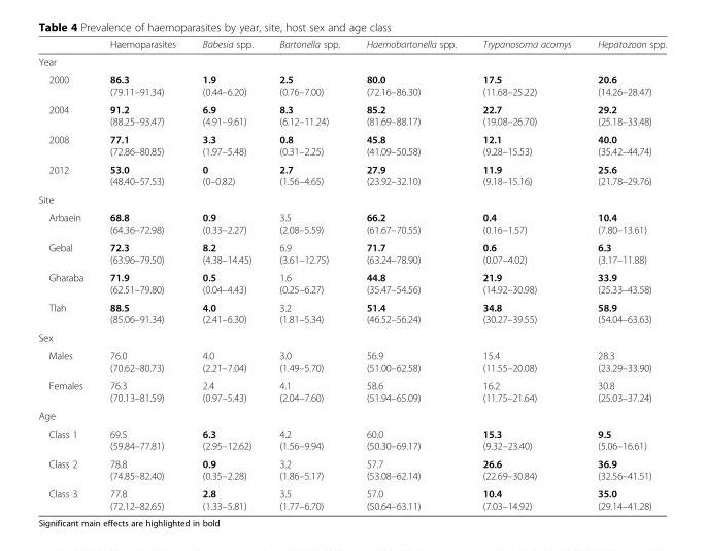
<table><thead><tr><td></td><td>Haemoparasites</td><td>Babesia spp.</td><td>Bartonella spp.</td><td>Haemobartonella spp.</td><td>Trypanosoma acomys</td><td>Hepatozoon spp.</td></tr></thead><tbody><tr><td colspan="7">Year</td></tr><tr><td>2000</td><td>86.3 (79.11–91.34)</td><td>1.9 (0.44–6.20)</td><td>2.5 (0.76–7.00)</td><td>80.0 (72.16–86.30)</td><td>17.5 (11.68–25.22)</td><td>20.6 (14.26–28.47)</td></tr><tr><td>2004</td><td>91.2 (88.25–93.47)</td><td>6.9 (4.91–9.61)</td><td>8.3 (6.12–11.24)</td><td>85.2 (81.69–88.17)</td><td>22.7 (19.08–26.70)</td><td>29.2 (25.18–33.48)</td></tr><tr><td>2008</td><td>77.1 (72.86–80.85)</td><td>3.3 (1.97–5.48)</td><td>0.8 (0.31–2.25)</td><td>45.8 (41.09–50.58)</td><td>12.1 (9.28–15.53)</td><td>40.0 (35.42–44.74)</td></tr><tr><td>2012</td><td>53.0 (48.40–57.53)</td><td>0 (0–0.82)</td><td>2.7 (1.56–4.65)</td><td>27.9 (23.92–32.10)</td><td>11.9 (9.18–15.16)</td><td>25.6 (21.78–29.76)</td></tr><tr><td colspan="7">Site</td></tr><tr><td>Arbaein</td><td>68.8 (64.36–72.98)</td><td>0.9 (0.33–2.27)</td><td>3.5 (2.08–5.59)</td><td>66.2 (61.67–70.55)</td><td>0.4 (0.16–1.57)</td><td>10.4 (7.80–13.61)</td></tr><tr><td>Gebal</td><td>72.3 (63.96–79.50)</td><td>8.2 (4.38–14.45)</td><td>6.9 (3.61–12.75)</td><td>71.7 (63.24–78.90)</td><td>0.6 (0.07–4.02)</td><td>6.3 (3.17–11.88)</td></tr><tr><td>Gharaba</td><td>71.9 (62.51–79.80)</td><td>0.5 (0.04–4.43)</td><td>1.6 (0.25–6.27)</td><td>44.8 (35.47–54.56)</td><td>21.9 (14.92–30.98)</td><td>33.9 (25.33–43.58)</td></tr><tr><td>Tlah</td><td>88.5 (85.06–91.34)</td><td>4.0 (2.41–6.30)</td><td>3.2 (1.81–5.34)</td><td>51.4 (46.52–56.24)</td><td>34.8 (30.27–39.55)</td><td>58.9 (54.04–63.63)</td></tr><tr><td colspan="7">Sex</td></tr><tr><td>Males</td><td>76.0 (70.62–80.73)</td><td>4.0 (2.21–7.04)</td><td>3.0 (1.49–5.70)</td><td>56.9 (51.00–62.58)</td><td>15.4 (11.55–20.08)</td><td>28.3 (23.29–33.90)</td></tr><tr><td>Females</td><td>76.3 (70.13–81.59)</td><td>2.4 (0.97–5.43)</td><td>4.1 (2.04–7.60)</td><td>58.6 (51.94–65.09)</td><td>16.2 (11.75–21.64)</td><td>30.8 (25.03–37.24)</td></tr><tr><td colspan="7">Age</td></tr><tr><td>Class 1</td><td>69.5 (59.84–77.81)</td><td>6.3 (2.95–12.62)</td><td>4.2 (1.56–9.94)</td><td>60.0 (50.30–69.17)</td><td>15.3 (9.32–23.40)</td><td>9.5 (5.06–16.61)</td></tr><tr><td>Class 2</td><td>78.8 (74.85–82.40)</td><td>0.9 (0.35–2.28)</td><td>3.2 (1.86–5.17)</td><td>57.7 (53.08–62.14)</td><td>26.6 (22.69–30.84)</td><td>36.9 (32.56–41.51)</td></tr><tr><td>Class 3</td><td>77.8 (72.12–82.65)</td><td>2.8 (1.33–5.81)</td><td>3.5 (1.77–6.70)</td><td>57.0 (50.64–63.11)</td><td>10.4 (7.03–14.92)</td><td>35.0 (29.14–41.28)</td></tr></tbody></table>